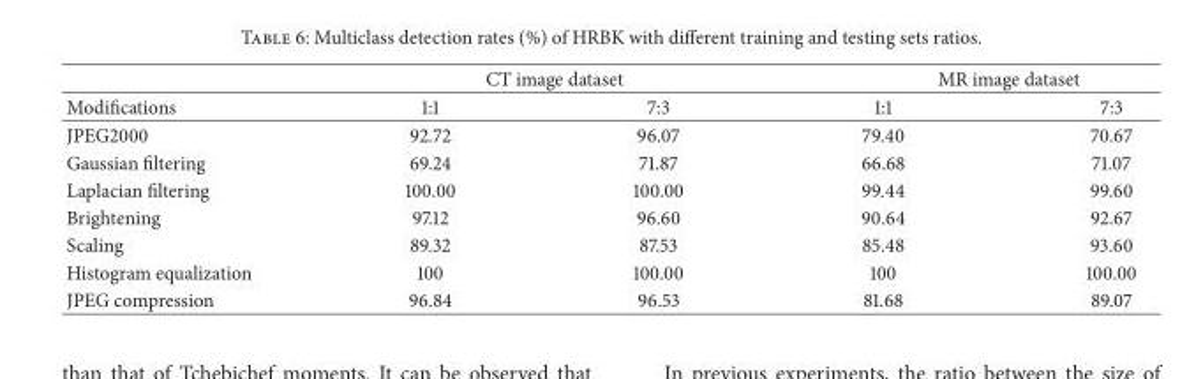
<table><thead><tr><td rowspan="2">Modifications</td><td colspan="2">CT image dataset</td><td colspan="2">MR image dataset</td></tr><tr><td>1:1</td><td>7:3</td><td>1:1</td><td>7:3</td></tr></thead><tbody><tr><td>JPEG2000</td><td>92.72</td><td>96.07</td><td>79.40</td><td>70.67</td></tr><tr><td>Gaussian filtering</td><td>69.24</td><td>71.87</td><td>66.68</td><td>71.07</td></tr><tr><td>Laplacian filtering</td><td>100.00</td><td>100.00</td><td>99.44</td><td>99.60</td></tr><tr><td>Brightening</td><td>97.12</td><td>96.60</td><td>90.64</td><td>92.67</td></tr><tr><td>Scaling</td><td>89.32</td><td>87.53</td><td>85.48</td><td>93.60</td></tr><tr><td>Histogram equalization</td><td>100</td><td>100.00</td><td>100</td><td>100.00</td></tr><tr><td>JPEG compression</td><td>96.84</td><td>96.53</td><td>81.68</td><td>89.07</td></tr></tbody></table>